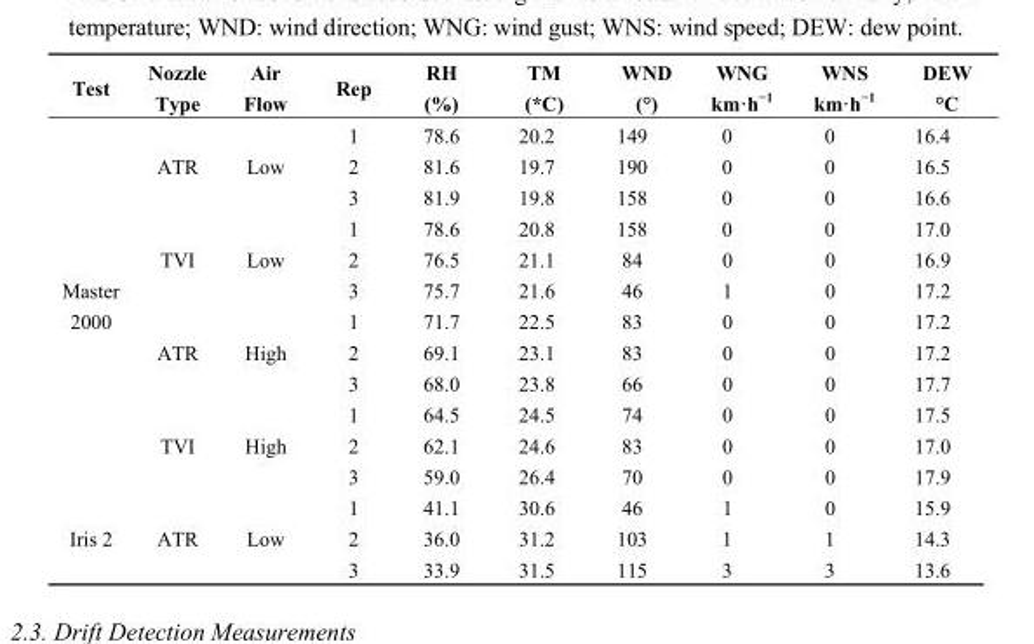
<table><thead><tr><td>Test</td><td>Nozzle Type</td><td>Air Flow</td><td>Rep</td><td>RH (%)</td><td>TM (*C)</td><td>WND (°)</td><td>WNG km·h<sup>−1</sup></td><td>WNS km·h<sup>−1</sup></td><td>DEW °C</td></tr></thead><tbody><tr><td rowspan="12">Master 2000</td><td rowspan="3">ATR</td><td rowspan="3">Low</td><td>1</td><td>78.6</td><td>20.2</td><td>149</td><td>0</td><td>0</td><td>16.4</td></tr><tr><td>2</td><td>81.6</td><td>19.7</td><td>190</td><td>0</td><td>0</td><td>16.5</td></tr><tr><td>3</td><td>81.9</td><td>19.8</td><td>158</td><td>0</td><td>0</td><td>16.6</td></tr><tr><td rowspan="3">TVI</td><td rowspan="3">Low</td><td>1</td><td>78.6</td><td>20.8</td><td>158</td><td>0</td><td>0</td><td>17.0</td></tr><tr><td>2</td><td>76.5</td><td>21.1</td><td>84</td><td>0</td><td>0</td><td>16.9</td></tr><tr><td>3</td><td>75.7</td><td>21.6</td><td>46</td><td>1</td><td>0</td><td>17.2</td></tr><tr><td rowspan="3">ATR</td><td rowspan="3">High</td><td>1</td><td>71.7</td><td>22.5</td><td>83</td><td>0</td><td>0</td><td>17.2</td></tr><tr><td>2</td><td>69.1</td><td>23.1</td><td>83</td><td>0</td><td>0</td><td>17.2</td></tr><tr><td>3</td><td>68.0</td><td>23.8</td><td>66</td><td>0</td><td>0</td><td>17.7</td></tr><tr><td rowspan="3">TVI</td><td rowspan="3">High</td><td>1</td><td>64.5</td><td>24.5</td><td>74</td><td>0</td><td>0</td><td>17.5</td></tr><tr><td>2</td><td>62.1</td><td>24.6</td><td>83</td><td>0</td><td>0</td><td>17.0</td></tr><tr><td>3</td><td>59.0</td><td>26.4</td><td>70</td><td>0</td><td>0</td><td>17.9</td></tr><tr><td rowspan="3">Iris 2</td><td rowspan="3">ATR</td><td rowspan="3">Low</td><td>1</td><td>41.1</td><td>30.6</td><td>46</td><td>1</td><td>0</td><td>15.9</td></tr><tr><td>2</td><td>36.0</td><td>31.2</td><td>103</td><td>1</td><td>1</td><td>14.3</td></tr><tr><td>3</td><td>33.9</td><td>31.5</td><td>115</td><td>3</td><td>3</td><td>13.6</td></tr></tbody></table>